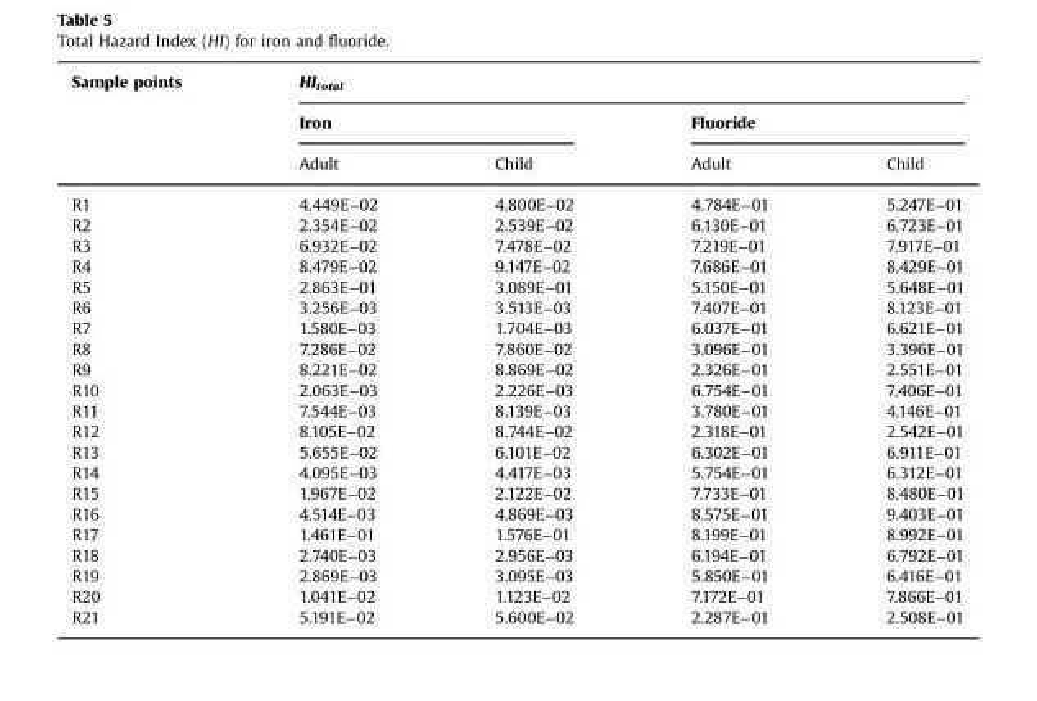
<table><thead><tr><td rowspan="3">Sample points</td><td colspan="4">HI<sub>total</sub></td></tr><tr><td colspan="2">Iron</td><td colspan="2">Fluoride</td></tr><tr><td>Adult</td><td>Child</td><td>Adult</td><td>Child</td></tr></thead><tbody><tr><td>R1</td><td>4.449E−02</td><td>4.800E−02</td><td>4.784E−01</td><td>5.247E−01</td></tr><tr><td>R2</td><td>2.354E−02</td><td>2.539E−02</td><td>6.130E−01</td><td>6.723E−01</td></tr><tr><td>R3</td><td>6.932E−02</td><td>7.478E−02</td><td>7.219E−01</td><td>7.917E−01</td></tr><tr><td>R4</td><td>8.479E−02</td><td>9.147E−02</td><td>7.686E−01</td><td>8.429E−01</td></tr><tr><td>R5</td><td>2.863E−01</td><td>3.089E−01</td><td>5.150E−01</td><td>5.648E−01</td></tr><tr><td>R6</td><td>3.256E−03</td><td>3.513E−03</td><td>7.407E−01</td><td>8.123E−01</td></tr><tr><td>R7</td><td>1.580E−03</td><td>1.704E−03</td><td>6.037E−01</td><td>6.621E−01</td></tr><tr><td>R8</td><td>7.286E−02</td><td>7.860E−02</td><td>3.096E−01</td><td>3.396E−01</td></tr><tr><td>R9</td><td>8.221E−02</td><td>8.869E−02</td><td>2.326E−01</td><td>2.551E−01</td></tr><tr><td>R10</td><td>2.063E−03</td><td>2.226E−03</td><td>6.754E−01</td><td>7.406E−01</td></tr><tr><td>R11</td><td>7.544E−03</td><td>8.139E−03</td><td>3.780E−01</td><td>4.146E−01</td></tr><tr><td>R12</td><td>8.105E−02</td><td>8.744E−02</td><td>2.318E−01</td><td>2.542E−01</td></tr><tr><td>R13</td><td>5.655E−02</td><td>6.101E−02</td><td>6.302E−01</td><td>6.911E−01</td></tr><tr><td>R14</td><td>4.095E−03</td><td>4.417E−03</td><td>5.754E−01</td><td>6.312E−01</td></tr><tr><td>R15</td><td>1.967E−02</td><td>2.122E−02</td><td>7.733E−01</td><td>8.480E−01</td></tr><tr><td>R16</td><td>4.514E−03</td><td>4.869E−03</td><td>8.575E−01</td><td>9.403E−01</td></tr><tr><td>R17</td><td>1.461E−01</td><td>1.576E−01</td><td>8.199E−01</td><td>8.992E−01</td></tr><tr><td>R18</td><td>2.740E−03</td><td>2.956E−03</td><td>6.194E−01</td><td>6.792E−01</td></tr><tr><td>R19</td><td>2.869E−03</td><td>3.095E−03</td><td>5.850E−01</td><td>6.416E−01</td></tr><tr><td>R20</td><td>1.041E−02</td><td>1.123E−02</td><td>7.172E−01</td><td>7.866E−01</td></tr><tr><td>R21</td><td>5.191E−02</td><td>5.600E−02</td><td>2.287E−01</td><td>2.508E−01</td></tr></tbody></table>